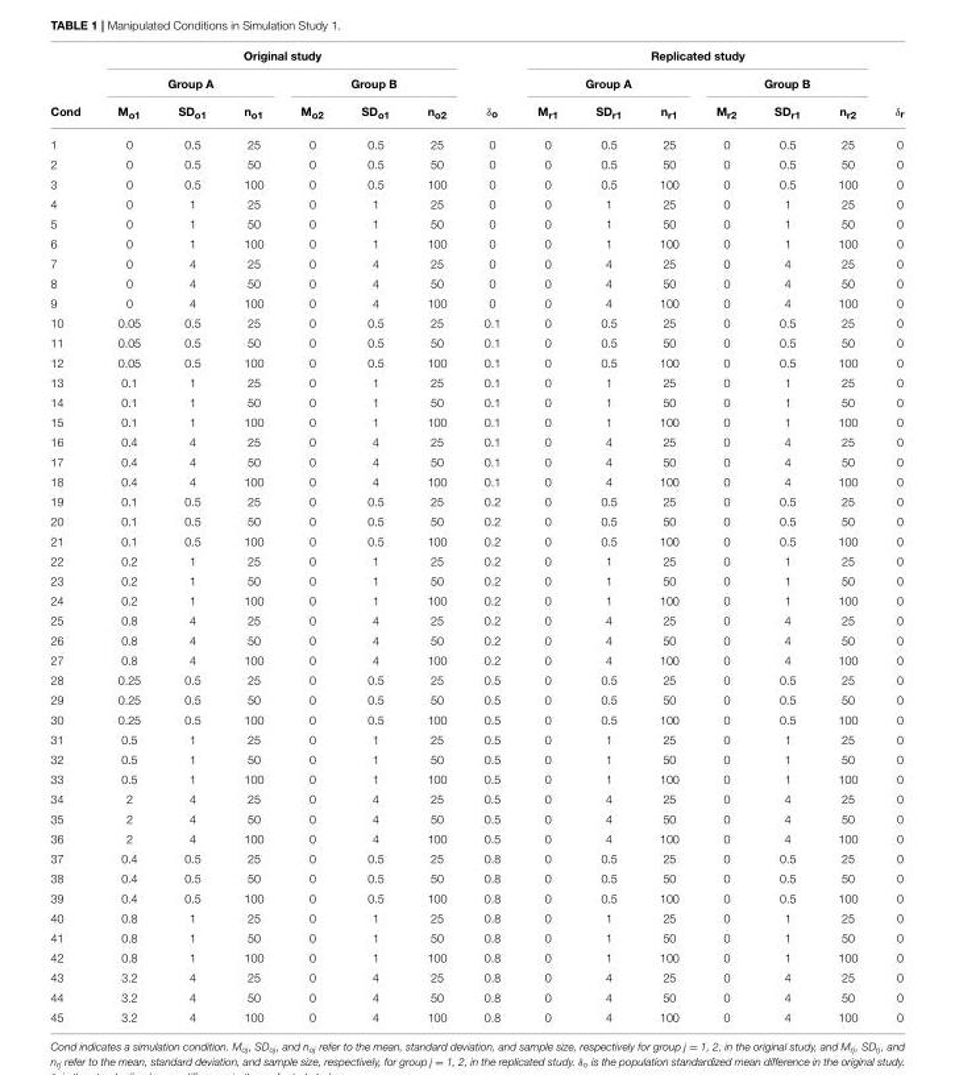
<table><thead><tr><td rowspan="3">Cond</td><td colspan="6">Original study</td><td rowspan="3">δ<sub>o</sub></td><td colspan="6">Replicated study</td><td rowspan="3">δ<sub>r</sub></td></tr><tr><td colspan="3">Group A</td><td colspan="3">Group B</td><td colspan="3">Group A</td><td colspan="3">Group B</td></tr><tr><td>M<sub>o1</sub></td><td>SD<sub>o1</sub></td><td>n<sub>o1</sub></td><td>M<sub>o2</sub></td><td>SD<sub>o1</sub></td><td>n<sub>o2</sub></td><td>M<sub>r1</sub></td><td>SD<sub>r1</sub></td><td>n<sub>r1</sub></td><td>M<sub>r2</sub></td><td>SD<sub>r1</sub></td><td>n<sub>r2</sub></td></tr></thead><tbody><tr><td>1</td><td>0</td><td>0.5</td><td>25</td><td>0</td><td>0.5</td><td>25</td><td>0</td><td>0</td><td>0.5</td><td>25</td><td>0</td><td>0.5</td><td>25</td><td>0</td></tr><tr><td>2</td><td>0</td><td>0.5</td><td>50</td><td>0</td><td>0.5</td><td>50</td><td>0</td><td>0</td><td>0.5</td><td>50</td><td>0</td><td>0.5</td><td>50</td><td>0</td></tr><tr><td>3</td><td>0</td><td>0.5</td><td>100</td><td>0</td><td>0.5</td><td>100</td><td>0</td><td>0</td><td>0.5</td><td>100</td><td>0</td><td>0.5</td><td>100</td><td>0</td></tr><tr><td>4</td><td>0</td><td>1</td><td>25</td><td>0</td><td>1</td><td>25</td><td>0</td><td>0</td><td>1</td><td>25</td><td>0</td><td>1</td><td>25</td><td>0</td></tr><tr><td>5</td><td>0</td><td>1</td><td>50</td><td>0</td><td>1</td><td>50</td><td>0</td><td>0</td><td>1</td><td>50</td><td>0</td><td>1</td><td>50</td><td>0</td></tr><tr><td>6</td><td>0</td><td>1</td><td>100</td><td>0</td><td>1</td><td>100</td><td>0</td><td>0</td><td>1</td><td>100</td><td>0</td><td>1</td><td>100</td><td>0</td></tr><tr><td>7</td><td>0</td><td>4</td><td>25</td><td>0</td><td>4</td><td>25</td><td>0</td><td>0</td><td>4</td><td>25</td><td>0</td><td>4</td><td>25</td><td>0</td></tr><tr><td>8</td><td>0</td><td>4</td><td>50</td><td>0</td><td>4</td><td>50</td><td>0</td><td>0</td><td>4</td><td>50</td><td>0</td><td>4</td><td>50</td><td>0</td></tr><tr><td>9</td><td>0</td><td>4</td><td>100</td><td>0</td><td>4</td><td>100</td><td>0</td><td>0</td><td>4</td><td>100</td><td>0</td><td>4</td><td>100</td><td>0</td></tr><tr><td>10</td><td>0.05</td><td>0.5</td><td>25</td><td>0</td><td>0.5</td><td>25</td><td>0.1</td><td>0</td><td>0.5</td><td>25</td><td>0</td><td>0.5</td><td>25</td><td>0</td></tr><tr><td>11</td><td>0.05</td><td>0.5</td><td>50</td><td>0</td><td>0.5</td><td>50</td><td>0.1</td><td>0</td><td>0.5</td><td>50</td><td>0</td><td>0.5</td><td>50</td><td>0</td></tr><tr><td>12</td><td>0.05</td><td>0.5</td><td>100</td><td>0</td><td>0.5</td><td>100</td><td>0.1</td><td>0</td><td>0.5</td><td>100</td><td>0</td><td>0.5</td><td>100</td><td>0</td></tr><tr><td>13</td><td>0.1</td><td>1</td><td>25</td><td>0</td><td>1</td><td>25</td><td>0.1</td><td>0</td><td>1</td><td>25</td><td>0</td><td>1</td><td>25</td><td>0</td></tr><tr><td>14</td><td>0.1</td><td>1</td><td>50</td><td>0</td><td>1</td><td>50</td><td>0.1</td><td>0</td><td>1</td><td>50</td><td>0</td><td>1</td><td>50</td><td>0</td></tr><tr><td>15</td><td>0.1</td><td>1</td><td>100</td><td>0</td><td>1</td><td>100</td><td>0.1</td><td>0</td><td>1</td><td>100</td><td>0</td><td>1</td><td>100</td><td>0</td></tr><tr><td>16</td><td>0.4</td><td>4</td><td>25</td><td>0</td><td>4</td><td>25</td><td>0.1</td><td>0</td><td>4</td><td>25</td><td>0</td><td>4</td><td>25</td><td>0</td></tr><tr><td>17</td><td>0.4</td><td>4</td><td>50</td><td>0</td><td>4</td><td>50</td><td>0.1</td><td>0</td><td>4</td><td>50</td><td>0</td><td>4</td><td>50</td><td>0</td></tr><tr><td>18</td><td>0.4</td><td>4</td><td>100</td><td>0</td><td>4</td><td>100</td><td>0.1</td><td>0</td><td>4</td><td>100</td><td>0</td><td>4</td><td>100</td><td>0</td></tr><tr><td>19</td><td>0.1</td><td>0.5</td><td>25</td><td>0</td><td>0.5</td><td>25</td><td>0.2</td><td>0</td><td>0.5</td><td>25</td><td>0</td><td>0.5</td><td>25</td><td>0</td></tr><tr><td>20</td><td>0.1</td><td>0.5</td><td>50</td><td>0</td><td>0.5</td><td>50</td><td>0.2</td><td>0</td><td>0.5</td><td>50</td><td>0</td><td>0.5</td><td>50</td><td>0</td></tr><tr><td>21</td><td>0.1</td><td>0.5</td><td>100</td><td>0</td><td>0.5</td><td>100</td><td>0.2</td><td>0</td><td>0.5</td><td>100</td><td>0</td><td>0.5</td><td>100</td><td>0</td></tr><tr><td>22</td><td>0.2</td><td>1</td><td>25</td><td>0</td><td>1</td><td>25</td><td>0.2</td><td>0</td><td>1</td><td>25</td><td>0</td><td>1</td><td>25</td><td>0</td></tr><tr><td>23</td><td>0.2</td><td>1</td><td>50</td><td>0</td><td>1</td><td>50</td><td>0.2</td><td>0</td><td>1</td><td>50</td><td>0</td><td>1</td><td>50</td><td>0</td></tr><tr><td>24</td><td>0.2</td><td>1</td><td>100</td><td>0</td><td>1</td><td>100</td><td>0.2</td><td>0</td><td>1</td><td>100</td><td>0</td><td>1</td><td>100</td><td>0</td></tr><tr><td>25</td><td>0.8</td><td>4</td><td>25</td><td>0</td><td>4</td><td>25</td><td>0.2</td><td>0</td><td>4</td><td>25</td><td>0</td><td>4</td><td>25</td><td>0</td></tr><tr><td>26</td><td>0.8</td><td>4</td><td>50</td><td>0</td><td>4</td><td>50</td><td>0.2</td><td>0</td><td>4</td><td>50</td><td>0</td><td>4</td><td>50</td><td>0</td></tr><tr><td>27</td><td>0.8</td><td>4</td><td>100</td><td>0</td><td>4</td><td>100</td><td>0.2</td><td>0</td><td>4</td><td>100</td><td>0</td><td>4</td><td>100</td><td>0</td></tr><tr><td>28</td><td>0.25</td><td>0.5</td><td>25</td><td>0</td><td>0.5</td><td>25</td><td>0.5</td><td>0</td><td>0.5</td><td>25</td><td>0</td><td>0.5</td><td>25</td><td>0</td></tr><tr><td>29</td><td>0.25</td><td>0.5</td><td>50</td><td>0</td><td>0.5</td><td>50</td><td>0.5</td><td>0</td><td>0.5</td><td>50</td><td>0</td><td>0.5</td><td>50</td><td>0</td></tr><tr><td>30</td><td>0.25</td><td>0.5</td><td>100</td><td>0</td><td>0.5</td><td>100</td><td>0.5</td><td>0</td><td>0.5</td><td>100</td><td>0</td><td>0.5</td><td>100</td><td>0</td></tr><tr><td>31</td><td>0.5</td><td>1</td><td>25</td><td>0</td><td>1</td><td>25</td><td>0.5</td><td>0</td><td>1</td><td>25</td><td>0</td><td>1</td><td>25</td><td>0</td></tr><tr><td>32</td><td>0.5</td><td>1</td><td>50</td><td>0</td><td>1</td><td>50</td><td>0.5</td><td>0</td><td>1</td><td>50</td><td>0</td><td>1</td><td>50</td><td>0</td></tr><tr><td>33</td><td>0.5</td><td>1</td><td>100</td><td>0</td><td>1</td><td>100</td><td>0.5</td><td>0</td><td>1</td><td>100</td><td>0</td><td>1</td><td>100</td><td>0</td></tr><tr><td>34</td><td>2</td><td>4</td><td>25</td><td>0</td><td>4</td><td>25</td><td>0.5</td><td>0</td><td>4</td><td>25</td><td>0</td><td>4</td><td>25</td><td>0</td></tr><tr><td>35</td><td>2</td><td>4</td><td>50</td><td>0</td><td>4</td><td>50</td><td>0.5</td><td>0</td><td>4</td><td>50</td><td>0</td><td>4</td><td>50</td><td>0</td></tr><tr><td>36</td><td>2</td><td>4</td><td>100</td><td>0</td><td>4</td><td>100</td><td>0.5</td><td>0</td><td>4</td><td>100</td><td>0</td><td>4</td><td>100</td><td>0</td></tr><tr><td>37</td><td>0.4</td><td>0.5</td><td>25</td><td>0</td><td>0.5</td><td>25</td><td>0.8</td><td>0</td><td>0.5</td><td>25</td><td>0</td><td>0.5</td><td>25</td><td>0</td></tr><tr><td>38</td><td>0.4</td><td>0.5</td><td>50</td><td>0</td><td>0.5</td><td>50</td><td>0.8</td><td>0</td><td>0.5</td><td>50</td><td>0</td><td>0.5</td><td>50</td><td>0</td></tr><tr><td>39</td><td>0.4</td><td>0.5</td><td>100</td><td>0</td><td>0.5</td><td>100</td><td>0.8</td><td>0</td><td>0.5</td><td>100</td><td>0</td><td>0.5</td><td>100</td><td>0</td></tr><tr><td>40</td><td>0.8</td><td>1</td><td>25</td><td>0</td><td>1</td><td>25</td><td>0.8</td><td>0</td><td>1</td><td>25</td><td>0</td><td>1</td><td>25</td><td>0</td></tr><tr><td>41</td><td>0.8</td><td>1</td><td>50</td><td>0</td><td>1</td><td>50</td><td>0.8</td><td>0</td><td>1</td><td>50</td><td>0</td><td>1</td><td>50</td><td>0</td></tr><tr><td>42</td><td>0.8</td><td>1</td><td>100</td><td>0</td><td>1</td><td>100</td><td>0.8</td><td>0</td><td>1</td><td>100</td><td>0</td><td>1</td><td>100</td><td>0</td></tr><tr><td>43</td><td>3.2</td><td>4</td><td>25</td><td>0</td><td>4</td><td>25</td><td>0.8</td><td>0</td><td>4</td><td>25</td><td>0</td><td>4</td><td>25</td><td>0</td></tr><tr><td>44</td><td>3.2</td><td>4</td><td>50</td><td>0</td><td>4</td><td>50</td><td>0.8</td><td>0</td><td>4</td><td>50</td><td>0</td><td>4</td><td>50</td><td>0</td></tr><tr><td>45</td><td>3.2</td><td>4</td><td>100</td><td>0</td><td>4</td><td>100</td><td>0.8</td><td>0</td><td>4</td><td>100</td><td>0</td><td>4</td><td>100</td><td>0</td></tr></tbody></table>